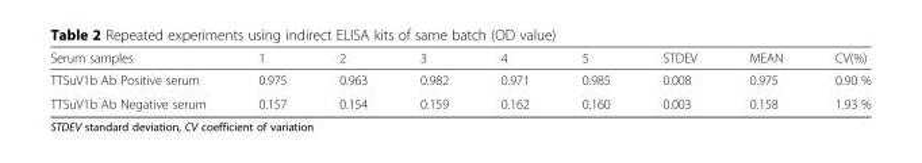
<table><thead><tr><td>Serum samples</td><td>1</td><td>2</td><td>3</td><td>4</td><td>5</td><td>STDEV</td><td>MEAN</td><td>CV(%)</td></tr></thead><tbody><tr><td>TTSuV1b Ab Positive serum</td><td>0.975</td><td>0.963</td><td>0.982</td><td>0.971</td><td>0.985</td><td>0.008</td><td>0.975</td><td>0.90 %</td></tr><tr><td>TTSuV1b Ab Negative serum</td><td>0.157</td><td>0.154</td><td>0.159</td><td>0.162</td><td>0.160</td><td>0.003</td><td>0.158</td><td>1.93 %</td></tr></tbody></table>